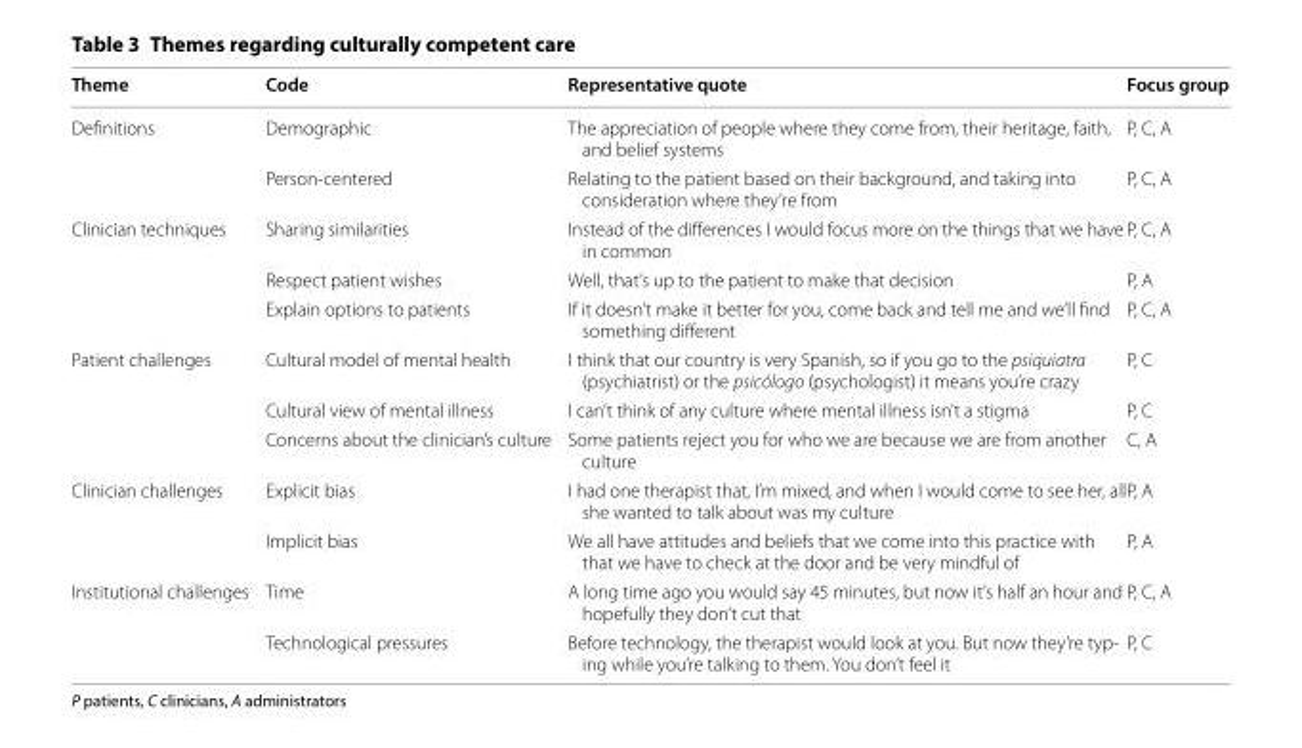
<table><thead><tr><td>Theme</td><td>Code</td><td>Representative quote</td><td>Focus group</td></tr></thead><tbody><tr><td rowspan="2">Definitions</td><td>Demographic</td><td>The appreciation of people where they come from, their heritage, faith, and belief systems</td><td>P, C, A</td></tr><tr><td>Person‑centered</td><td>Relating to the patient based on their background, and taking into consideration where they’re from</td><td>P, C, A</td></tr><tr><td rowspan="3">Clinician techniques</td><td>Sharing similarities</td><td>Instead of the differences I would focus more on the things that we have in common</td><td>P, C, A</td></tr><tr><td>Respect patient wishes</td><td>Well, that’s up to the patient to make that decision</td><td>P, A</td></tr><tr><td>Explain options to patients</td><td>If it doesn’t make it better for you, come back and tell me and we’ll find something different</td><td>P, C, A</td></tr><tr><td rowspan="3">Patient challenges</td><td>Cultural model of mental health</td><td>I think that our country is very Spanish, so if you go to the psiquiatra (psychiatrist) or the psicólogo (psychologist) it means you’re crazy</td><td>P, C</td></tr><tr><td>Cultural view of mental illness</td><td>I can’t think of any culture where mental illness isn’t a stigma</td><td>P, C</td></tr><tr><td>Concerns about the clinician’s culture</td><td>Some patients reject you for who we are because we are from another culture</td><td>C, A</td></tr><tr><td rowspan="2">Clinician challenges</td><td>Explicit bias</td><td>I had one therapist that, I’m mixed, and when I would come to see her, all she wanted to talk about was my culture</td><td>P, A</td></tr><tr><td>Implicit bias</td><td>We all have attitudes and beliefs that we come into this practice with that we have to check at the door and be very mindful of</td><td>P, A</td></tr><tr><td rowspan="2">Institutional challenges</td><td>Time</td><td>A long time ago you would say 45 minutes, but now it’s half an hour and hopefully they don’t cut that</td><td>P, C, A</td></tr><tr><td>Technological pressures</td><td>Before technology, the therapist would look at you. But now they’re typ‑ ing while you’re talking to them. You don’t feel it</td><td>P, C</td></tr></tbody></table>